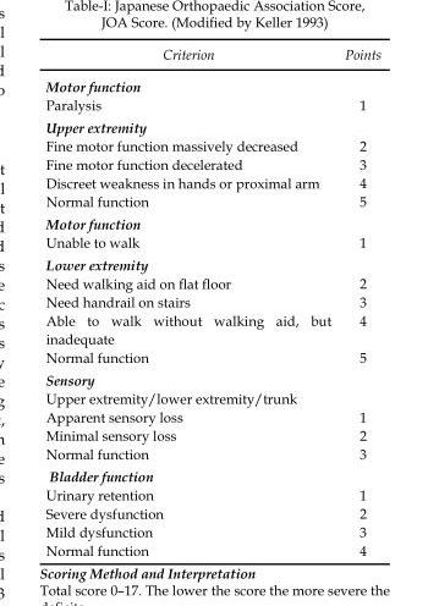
<table><thead><tr><td>Criterion</td><td>Points</td></tr></thead><tbody><tr><td colspan="2">Motor function</td></tr><tr><td>Paralysis</td><td>1</td></tr><tr><td colspan="2">Upper extremity</td></tr><tr><td>Fine motor function massively decreased</td><td>2</td></tr><tr><td>Fine motor function decelerated</td><td>3</td></tr><tr><td>Discreet weakness in hands or proximal arm</td><td>4</td></tr><tr><td>Normal function</td><td>5</td></tr><tr><td>Motor function Unable to walk</td><td>1</td></tr><tr><td colspan="2">Lower extremity</td></tr><tr><td>Need walking aid on flat floor</td><td>2</td></tr><tr><td>Need handrail on stairs</td><td>3</td></tr><tr><td>Able to walk without walking aid, but inadequate</td><td>4</td></tr><tr><td>Normal function</td><td>5</td></tr><tr><td colspan="2">Sensory</td></tr><tr><td colspan="2">Upper extremity/lower extremity/trunk</td></tr><tr><td>Apparent sensory loss</td><td>1</td></tr><tr><td>Minimal sensory loss</td><td>2</td></tr><tr><td>Normal function</td><td>3</td></tr><tr><td colspan="2">Bladder function</td></tr><tr><td>Urinary retention</td><td>1</td></tr><tr><td>Severe dysfunction</td><td>2</td></tr><tr><td>Mild dysfunction</td><td>3</td></tr><tr><td>Normal function</td><td>4</td></tr></tbody></table>